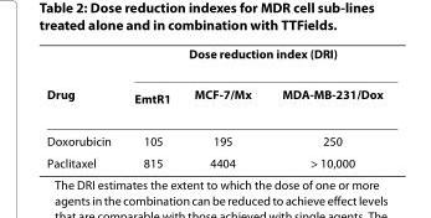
<table><thead><tr><td rowspan="2">Drug</td><td colspan="3">Dose reduction index (DRI)</td></tr><tr><td>Emt<sup>R1</sup></td><td>MCF-7/Mx</td><td>MDA-MB-231/Dox</td></tr></thead><tbody><tr><td>Doxorubicin</td><td>105</td><td>195</td><td>250</td></tr><tr><td>Paclitaxel</td><td>815</td><td>4404</td><td>&gt; 10,000</td></tr></tbody></table>